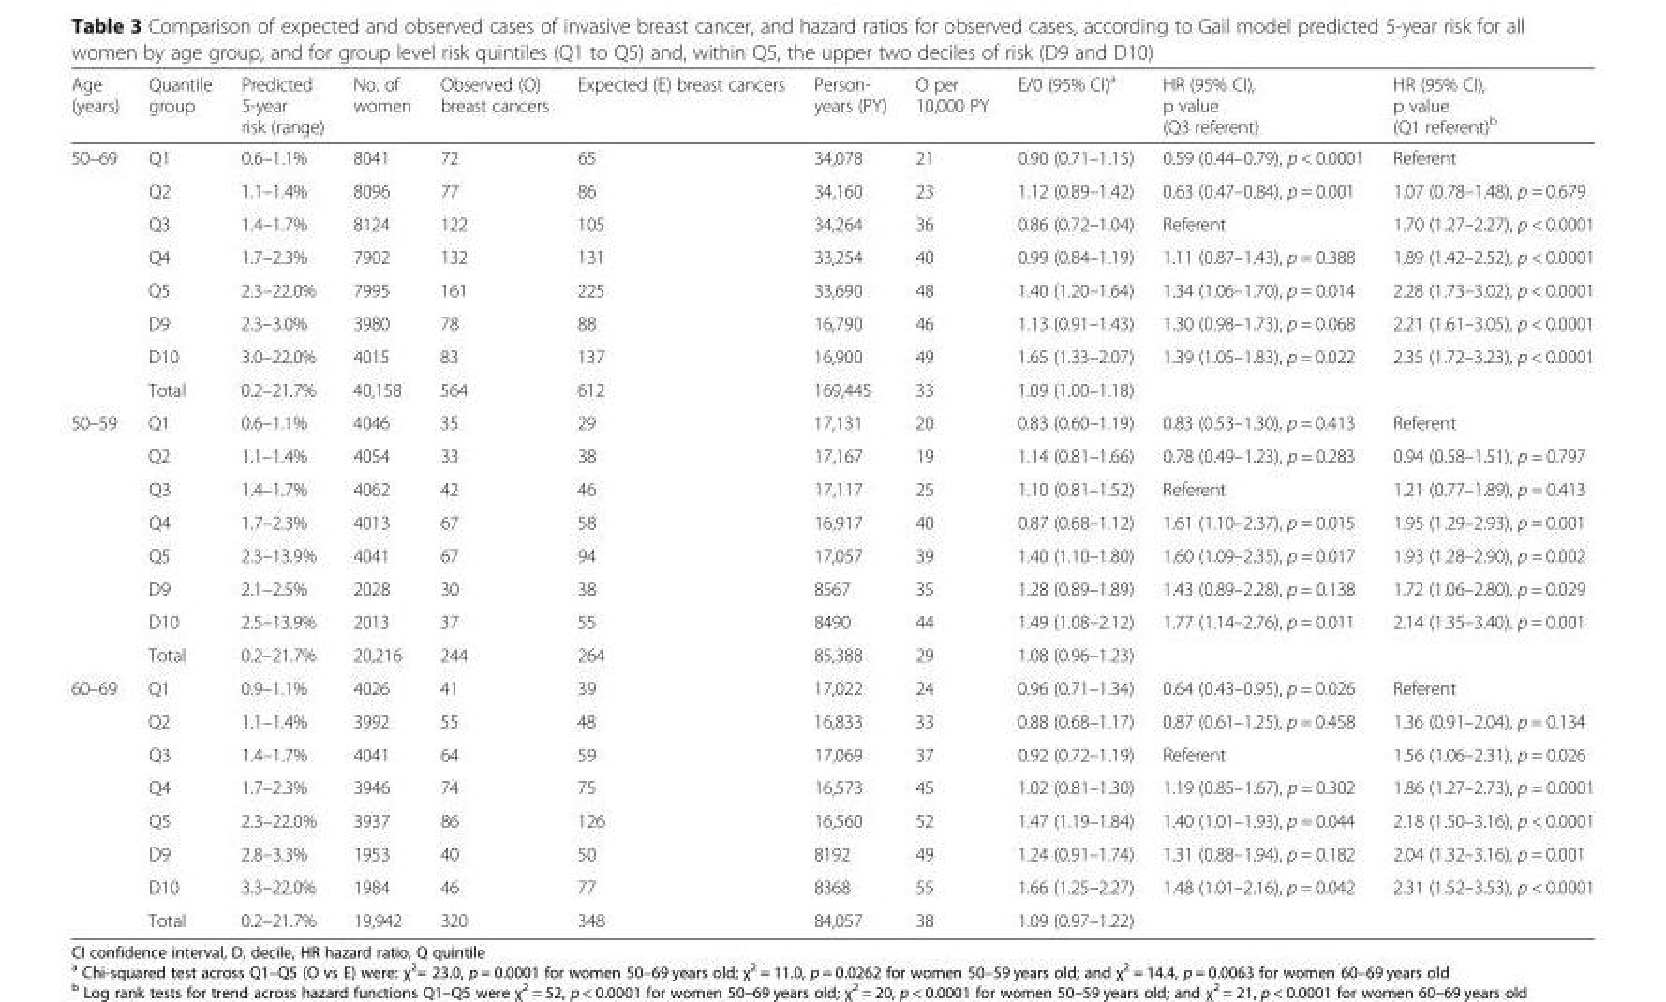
<table><thead><tr><td>Age (years)</td><td>Quantile group</td><td>Predicted 5-year risk (range)</td><td>No. of women</td><td>Observed (O) breast cancers</td><td>Expected (E) breast cancers</td><td>Person- years (PY)</td><td>O per 10,000 PY</td><td>E/0 (95% CI)<sup>a</sup></td><td>HR (95% CI), p value (Q3 referent)</td><td>HR (95% CI), p value (Q1 referent)<sup>b</sup></td></tr></thead><tbody><tr><td rowspan="8">50–69</td><td>Q1</td><td>0.6–1.1%</td><td>8041</td><td>72</td><td>65</td><td>34,078</td><td>21</td><td>0.90 (0.71–1.15)</td><td>0.59 (0.44–0.79), p &lt; 0.0001</td><td>Referent</td></tr><tr><td>Q2</td><td>1.1–1.4%</td><td>8096</td><td>77</td><td>86</td><td>34,160</td><td>23</td><td>1.12 (0.89–1.42)</td><td>0.63 (0.47–0.84), p = 0.001</td><td>1.07 (0.78–1.48), p = 0.679</td></tr><tr><td>Q3</td><td>1.4–1.7%</td><td>8124</td><td>122</td><td>105</td><td>34,264</td><td>36</td><td>0.86 (0.72–1.04)</td><td>Referent</td><td>1.70 (1.27–2.27), p &lt; 0.0001</td></tr><tr><td>Q4</td><td>1.7–2.3%</td><td>7902</td><td>132</td><td>131</td><td>33,254</td><td>40</td><td>0.99 (0.84–1.19)</td><td>1.11 (0.87–1.43), p = 0.388</td><td>1.89 (1.42–2.52), p &lt; 0.0001</td></tr><tr><td>Q5</td><td>2.3–22.0%</td><td>7995</td><td>161</td><td>225</td><td>33,690</td><td>48</td><td>1.40 (1.20–1.64)</td><td>1.34 (1.06–1.70), p = 0.014</td><td>2.28 (1.73–3.02), p &lt; 0.0001</td></tr><tr><td>D9</td><td>2.3–3.0%</td><td>3980</td><td>78</td><td>88</td><td>16,790</td><td>46</td><td>1.13 (0.91–1.43)</td><td>1.30 (0.98–1.73), p = 0.068</td><td>2.21 (1.61–3.05), p &lt; 0.0001</td></tr><tr><td>D10</td><td>3.0–22.0%</td><td>4015</td><td>83</td><td>137</td><td>16,900</td><td>49</td><td>1.65 (1.33–2.07)</td><td>1.39 (1.05–1.83), p = 0.022</td><td>2.35 (1.72–3.23), p &lt; 0.0001</td></tr><tr><td>Total</td><td>0.2–21.7%</td><td>40,158</td><td>564</td><td>612</td><td>169,445</td><td>33</td><td>1.09 (1.00–1.18)</td><td></td><td></td></tr><tr><td rowspan="8">50–59</td><td>Q1</td><td>0.6–1.1%</td><td>4046</td><td>35</td><td>29</td><td>17,131</td><td>20</td><td>0.83 (0.60–1.19)</td><td>0.83 (0.53–1.30), p = 0.413</td><td>Referent</td></tr><tr><td>Q2</td><td>1.1–1.4%</td><td>4054</td><td>33</td><td>38</td><td>17,167</td><td>19</td><td>1.14 (0.81–1.66)</td><td>0.78 (0.49–1.23), p = 0.283</td><td>0.94 (0.58–1.51), p = 0.797</td></tr><tr><td>Q3</td><td>1.4–1.7%</td><td>4062</td><td>42</td><td>46</td><td>17,117</td><td>25</td><td>1.10 (0.81–1.52)</td><td>Referent</td><td>1.21 (0.77–1.89), p = 0.413</td></tr><tr><td>Q4</td><td>1.7–2.3%</td><td>4013</td><td>67</td><td>58</td><td>16,917</td><td>40</td><td>0.87 (0.68–1.12)</td><td>1.61 (1.10–2.37), p = 0.015</td><td>1.95 (1.29–2.93), p = 0.001</td></tr><tr><td>Q5</td><td>2.3–13.9%</td><td>4041</td><td>67</td><td>94</td><td>17,057</td><td>39</td><td>1.40 (1.10–1.80)</td><td>1.60 (1.09–2.35), p = 0.017</td><td>1.93 (1.28–2.90), p = 0.002</td></tr><tr><td>D9</td><td>2.1–2.5%</td><td>2028</td><td>30</td><td>38</td><td>8567</td><td>35</td><td>1.28 (0.89–1.89)</td><td>1.43 (0.89–2.28), p = 0.138</td><td>1.72 (1.06–2.80), p = 0.029</td></tr><tr><td>D10</td><td>2.5–13.9%</td><td>2013</td><td>37</td><td>55</td><td>8490</td><td>44</td><td>1.49 (1.08–2.12)</td><td>1.77 (1.14–2.76), p = 0.011</td><td>2.14 (1.35–3.40), p = 0.001</td></tr><tr><td>Total</td><td>0.2–21.7%</td><td>20,216</td><td>244</td><td>264</td><td>85,388</td><td>29</td><td>1.08 (0.96–1.23)</td><td></td><td></td></tr><tr><td rowspan="8">60–69</td><td>Q1</td><td>0.9–1.1%</td><td>4026</td><td>41</td><td>39</td><td>17,022</td><td>24</td><td>0.96 (0.71–1.34)</td><td>0.64 (0.43–0.95), p = 0.026</td><td>Referent</td></tr><tr><td>Q2</td><td>1.1–1.4%</td><td>3992</td><td>55</td><td>48</td><td>16,833</td><td>33</td><td>0.88 (0.68–1.17)</td><td>0.87 (0.61–1.25), p = 0.458</td><td>1.36 (0.91–2.04), p = 0.134</td></tr><tr><td>Q3</td><td>1.4–1.7%</td><td>4041</td><td>64</td><td>59</td><td>17,069</td><td>37</td><td>0.92 (0.72–1.19)</td><td>Referent</td><td>1.56 (1.06–2.31), p = 0.026</td></tr><tr><td>Q4</td><td>1.7–2.3%</td><td>3946</td><td>74</td><td>75</td><td>16,573</td><td>45</td><td>1.02 (0.81–1.30)</td><td>1.19 (0.85–1.67), p = 0.302</td><td>1.86 (1.27–2.73), p = 0.0001</td></tr><tr><td>Q5</td><td>2.3–22.0%</td><td>3937</td><td>86</td><td>126</td><td>16,560</td><td>52</td><td>1.47 (1.19–1.84)</td><td>1.40 (1.01–1.93), p = 0.044</td><td>2.18 (1.50–3.16), p &lt; 0.0001</td></tr><tr><td>D9</td><td>2.8–3.3%</td><td>1953</td><td>40</td><td>50</td><td>8192</td><td>49</td><td>1.24 (0.91–1.74)</td><td>1.31 (0.88–1.94), p = 0.182</td><td>2.04 (1.32–3.16), p = 0.001</td></tr><tr><td>D10</td><td>3.3–22.0%</td><td>1984</td><td>46</td><td>77</td><td>8368</td><td>55</td><td>1.66 (1.25–2.27)</td><td>1.48 (1.01–2.16), p = 0.042</td><td>2.31 (1.52–3.53), p &lt; 0.0001</td></tr><tr><td>Total</td><td>0.2–21.7%</td><td>19,942</td><td>320</td><td>348</td><td>84,057</td><td>38</td><td>1.09 (0.97–1.22)</td><td></td><td></td></tr></tbody></table>